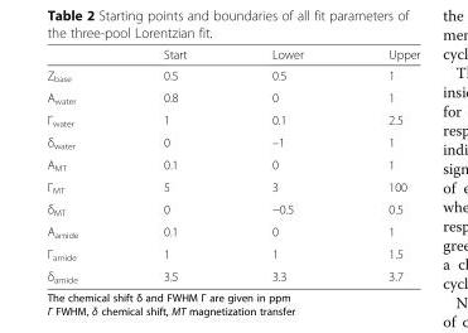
<table><thead><tr><td></td><td>Start</td><td>Lower</td><td>Upper</td></tr></thead><tbody><tr><td>Z<sub>base</sub></td><td>0.5</td><td>0.5</td><td>1</td></tr><tr><td>A<sub>water</sub></td><td>0.8</td><td>0</td><td>1</td></tr><tr><td>Γ<sub>water</sub></td><td>1</td><td>0.1</td><td>2.5</td></tr><tr><td>δ<sub>water</sub></td><td>0</td><td>–1</td><td>1</td></tr><tr><td>A<sub>MT</sub></td><td>0.1</td><td>0</td><td>1</td></tr><tr><td>Γ<sub>MT</sub></td><td>5</td><td>3</td><td>100</td></tr><tr><td>δ<sub>MT</sub></td><td>0</td><td>−0.5</td><td>0.5</td></tr><tr><td>A<sub>amide</sub></td><td>0.1</td><td>0</td><td>1</td></tr><tr><td>Γ<sub>amide</sub></td><td>1</td><td>1</td><td>1.5</td></tr><tr><td>δ<sub>amide</sub></td><td>3.5</td><td>3.3</td><td>3.7</td></tr></tbody></table>